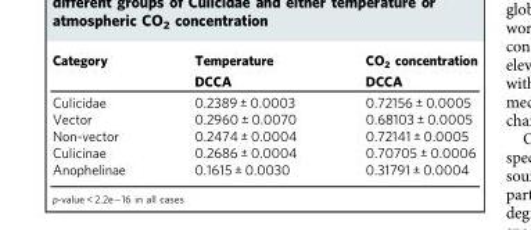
<table><thead><tr><td rowspan="2">Category</td><td rowspan="2">Temperature DCCA</td><td rowspan="2">CO<sub>2</sub> concentration DCCA</td></tr><tr></tr></thead><tbody><tr><td>Culicidae</td><td>0.2389 ± 0.0003</td><td>0.72156 ± 0.0005</td></tr><tr><td>Vector</td><td>0.2960 ± 0.0070</td><td>0.68103 ± 0.0005</td></tr><tr><td>Non-vector</td><td>0.2474 ± 0.0004</td><td>0.72141 ± 0.0005</td></tr><tr><td>Culicinae</td><td>0.2686 ± 0.0004</td><td>0.70705 ± 0.0006</td></tr><tr><td>Anophelinae</td><td>0.1615 ± 0.0030</td><td>0.31791 ± 0.0004</td></tr></tbody></table>